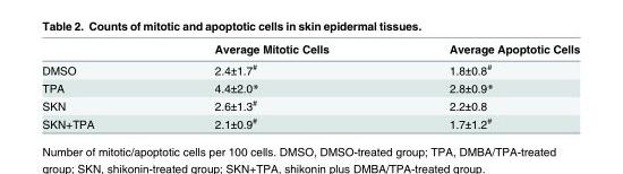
<table><thead><tr><td></td><td>Average Mitotic Cells</td><td>Average Apoptotic Cells</td></tr></thead><tbody><tr><td>DMSO</td><td>2.4±1.7<sup>#</sup></td><td>1.8±0.8<sup>#</sup></td></tr><tr><td>TPA</td><td>4.4±2.0*</td><td>2.8±0.9*</td></tr><tr><td>SKN</td><td>2.6±1.3<sup>#</sup></td><td>2.2±0.8</td></tr><tr><td>SKN+TPA</td><td>2.1±0.9<sup>#</sup></td><td>1.7±1.2<sup>#</sup></td></tr></tbody></table>